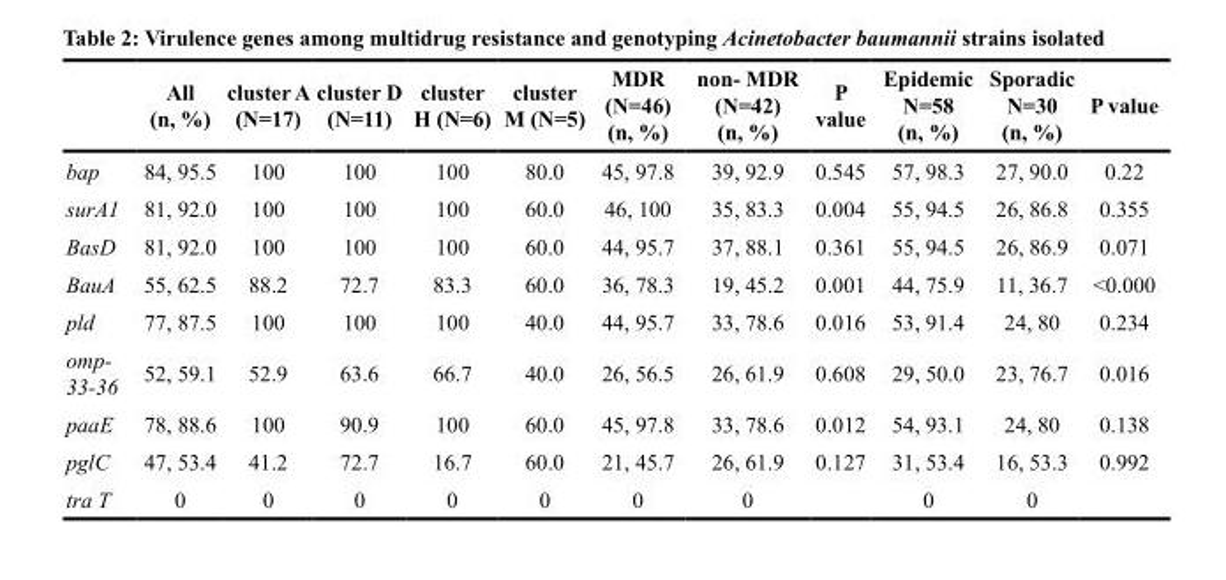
<table><thead><tr><td></td><td>All (n, %)</td><td>cluster A (N=17)</td><td>cluster D (N=11)</td><td>cluster H (N=6)</td><td>cluster M (N=5)</td><td>MDR (N=46) (n, %)</td><td>non- MDR (N=42) (n, %)</td><td>P value</td><td>Epidemic N=58 (n, %)</td><td>Sporadic N=30 (n, %)</td><td>P value</td></tr></thead><tbody><tr><td>bap</td><td>84, 95.5</td><td>100</td><td>100</td><td>100</td><td>80.0</td><td>45, 97.8</td><td>39, 92.9</td><td>0.545</td><td>57, 98.3</td><td>27, 90.0</td><td>0.22</td></tr><tr><td>surA1</td><td>81, 92.0</td><td>100</td><td>100</td><td>100</td><td>60.0</td><td>46, 100</td><td>35, 83.3</td><td>0.004</td><td>55, 94.5</td><td>26, 86.8</td><td>0.355</td></tr><tr><td>BasD</td><td>81, 92.0</td><td>100</td><td>100</td><td>100</td><td>60.0</td><td>44, 95.7</td><td>37, 88.1</td><td>0.361</td><td>55, 94.5</td><td>26, 86.9</td><td>0.071</td></tr><tr><td>BauA</td><td>55, 62.5</td><td>88.2</td><td>72.7</td><td>83.3</td><td>60.0</td><td>36, 78.3</td><td>19, 45.2</td><td>0.001</td><td>44, 75.9</td><td>11, 36.7</td><td>&lt;0.000</td></tr><tr><td>pld</td><td>77, 87.5</td><td>100</td><td>100</td><td>100</td><td>40.0</td><td>44, 95.7</td><td>33, 78.6</td><td>0.016</td><td>53, 91.4</td><td>24, 80</td><td>0.234</td></tr><tr><td>omp- 33-36</td><td>52, 59.1</td><td>52.9</td><td>63.6</td><td>66.7</td><td>40.0</td><td>26, 56.5</td><td>26, 61.9</td><td>0.608</td><td>29, 50.0</td><td>23, 76.7</td><td>0.016</td></tr><tr><td>paaE</td><td>78, 88.6</td><td>100</td><td>90.9</td><td>100</td><td>60.0</td><td>45, 97.8</td><td>33, 78.6</td><td>0.012</td><td>54, 93.1</td><td>24, 80</td><td>0.138</td></tr><tr><td>pglC</td><td>47, 53.4</td><td>41.2</td><td>72.7</td><td>16.7</td><td>60.0</td><td>21, 45.7</td><td>26, 61.9</td><td>0.127</td><td>31, 53.4</td><td>16, 53.3</td><td>0.992</td></tr><tr><td>tra T</td><td>0</td><td>0</td><td>0</td><td>0</td><td>0</td><td>0</td><td>0</td><td></td><td>0</td><td>0</td><td></td></tr></tbody></table>